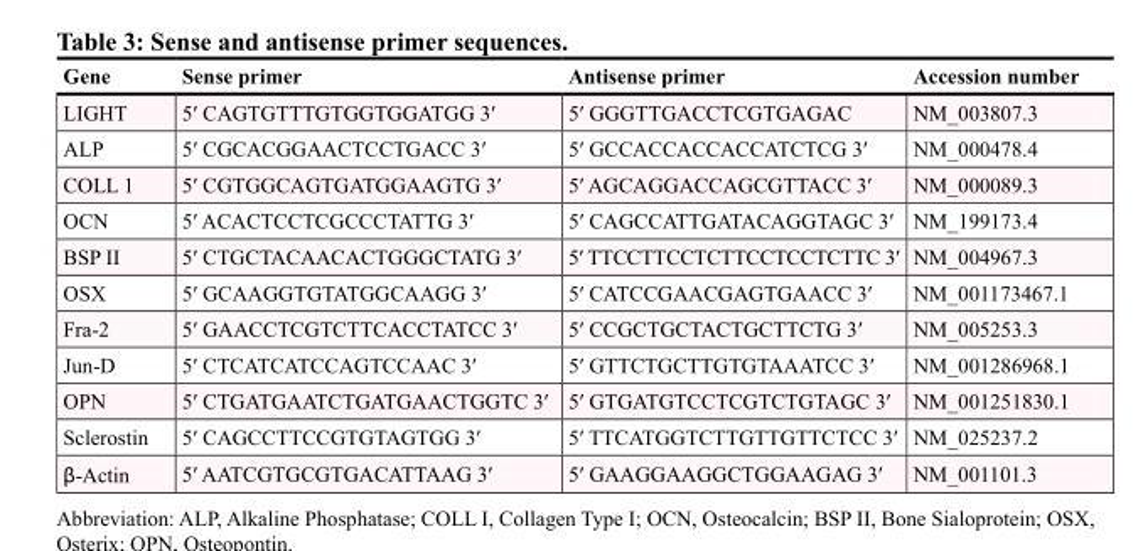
<table><thead><tr><td>Gene</td><td>Sense primer</td><td>Antisense primer</td><td>Accession number</td></tr></thead><tbody><tr><td>LIGHT</td><td>5′ CAGTGTTTGTGGTGGATGG 3′</td><td>5′ GGGTTGACCTCGTGAGAC</td><td>NM_003807.3</td></tr><tr><td>ALP</td><td>5′ CGCACGGAACTCCTGACC 3′</td><td>5′ GCCACCACCACCATCTCG 3′</td><td>NM_000478.4</td></tr><tr><td>COLL 1</td><td>5′ CGTGGCAGTGATGGAAGTG 3′</td><td>5′ AGCAGGACCAGCGTTACC 3′</td><td>NM_000089.3</td></tr><tr><td>OCN</td><td>5′ ACACTCCTCGCCCTATTG 3′</td><td>5′ CAGCCATTGATACAGGTAGC 3′</td><td>NM_199173.4</td></tr><tr><td>BSP II</td><td>5′ CTGCTACAACACTGGGCTATG 3′</td><td>5′ TTCCTTCCTCTTCCTCCTCTTC 3′</td><td>NM_004967.3</td></tr><tr><td>OSX</td><td>5′ GCAAGGTGTATGGCAAGG 3′</td><td>5′ CATCCGAACGAGTGAACC 3′</td><td>NM_001173467.1</td></tr><tr><td>Fra-2</td><td>5′ GAACCTCGTCTTCACCTATCC 3′</td><td>5′ CCGCTGCTACTGCTTCTG 3′</td><td>NM_005253.3</td></tr><tr><td>Jun-D</td><td>5′ CTCATCATCCAGTCCAAC 3′</td><td>5′ GTTCTGCTTGTGTAAATCC 3′</td><td>NM_001286968.1</td></tr><tr><td>OPN</td><td>5′ CTGATGAATCTGATGAACTGGTC 3′</td><td>5′ GTGATGTCCTCGTCTGTAGC 3′</td><td>NM_001251830.1</td></tr><tr><td>Sclerostin</td><td>5′ CAGCCTTCCGTGTAGTGG 3′</td><td>5′ TTCATGGTCTTGTTGTTCTCC 3′</td><td>NM_025237.2</td></tr><tr><td>β-Actin</td><td>5′ AATCGTGCGTGACATTAAG 3′</td><td>5′ GAAGGAAGGCTGGAAGAG 3′</td><td>NM_001101.3</td></tr></tbody></table>